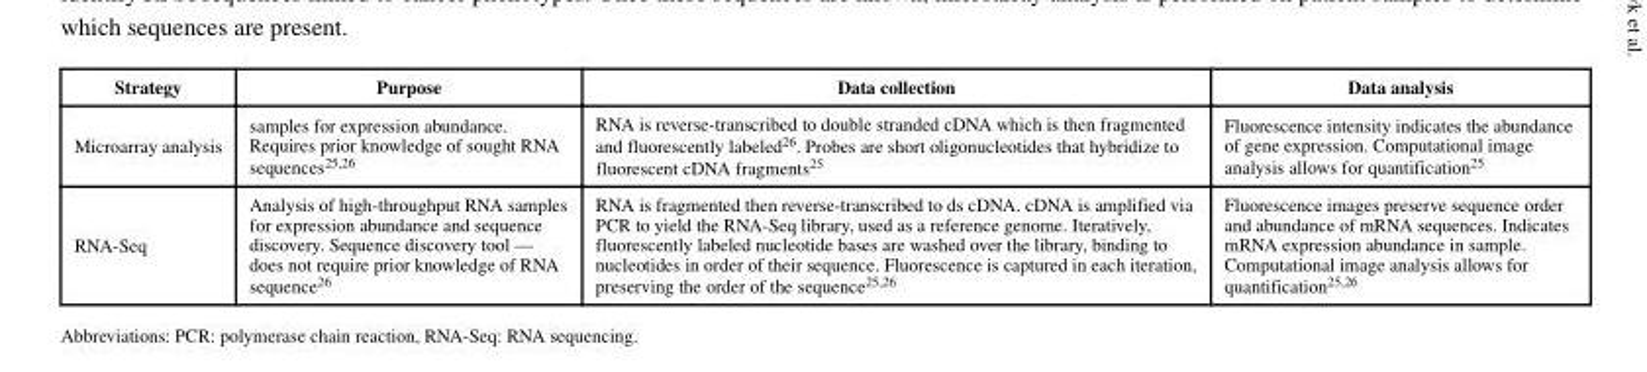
<table><thead><tr><td>Strategy</td><td>Purpose</td><td>Data collection</td><td>Data analysis</td></tr></thead><tbody><tr><td>Microarray analysis</td><td>samples for expression abundance. Requires prior knowledge of sought RNA sequences<sup>25,26</sup></td><td>RNA is reverse-transcribed to double stranded cDNA which is then fragmented and fluorescently labeled<sup>26</sup>. Probes are short oligonucleotides that hybridize to fluorescent cDNA fragments<sup>25</sup></td><td>Fluorescence intensity indicates the abundance of gene expression. Computational image analysis allows for quantification<sup>25</sup></td></tr><tr><td>RNA-Seq</td><td>Analysis of high-throughput RNA samples for expression abundance and sequence discovery. Sequence discovery tool — does not require prior knowledge of RNA sequence<sup>26</sup></td><td>RNA is fragmented then reverse-transcribed to ds cDNA. cDNA is amplified via PCR to yield the RNA-Seq library, used as a reference genome. Iteratively, fluorescently labeled nucleotide bases are washed over the library, binding to nucleotides in order of their sequence. Fluorescence is captured in each iteration, preserving the order of the sequence<sup>25,26</sup></td><td>Fluorescence images preserve sequence order and abundance of mRNA sequences. Indicates mRNA expression abundance in sample. Computational image analysis allows for quantification<sup>25,26</sup></td></tr></tbody></table>